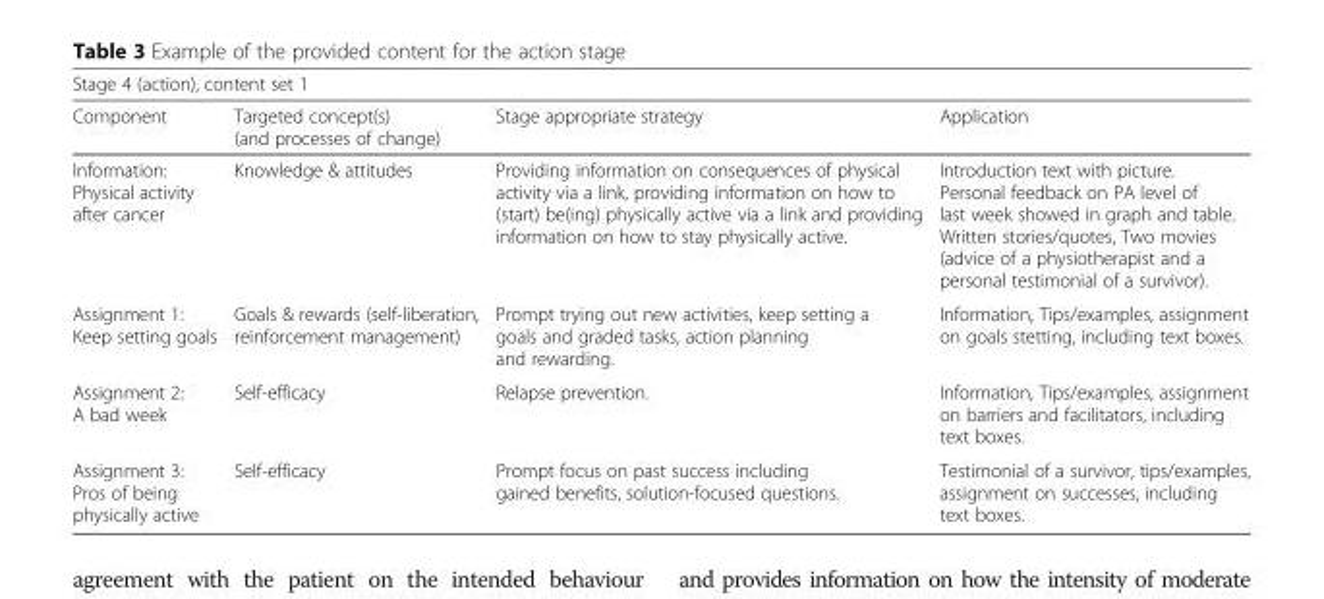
<table><thead><tr><td colspan="4">Stage 4 (action), content set 1</td></tr><tr><td>Component</td><td>Targeted concept(s) (and processes of change)</td><td>Stage appropriate strategy</td><td>Application</td></tr></thead><tbody><tr><td>Information: Physical activity after cancer</td><td>Knowledge &amp; attitudes</td><td>Providing information on consequences of physical activity via a link, providing information on how to (start) be(ing) physically active via a link and providing information on how to stay physically active.</td><td>Introduction text with picture. Personal feedback on PA level of last week showed in graph and table. Written stories/quotes, Two movies (advice of a physiotherapist and a personal testimonial of a survivor).</td></tr><tr><td>Assignment 1: Keep setting goals</td><td>Goals &amp; rewards (self-liberation, reinforcement management)</td><td>Prompt trying out new activities, keep setting a goals and graded tasks, action planning and rewarding.</td><td>Information, Tips/examples, assignment on goals stetting, including text boxes.</td></tr><tr><td>Assignment 2: A bad week</td><td>Self-efficacy</td><td>Relapse prevention.</td><td>Information, Tips/examples, assignment on barriers and facilitators, including text boxes.</td></tr><tr><td>Assignment 3: Pros of being physically active</td><td>Self-efficacy</td><td>Prompt focus on past success including gained benefits, solution-focused questions.</td><td>Testimonial of a survivor, tips/examples, assignment on successes, including text boxes.</td></tr></tbody></table>